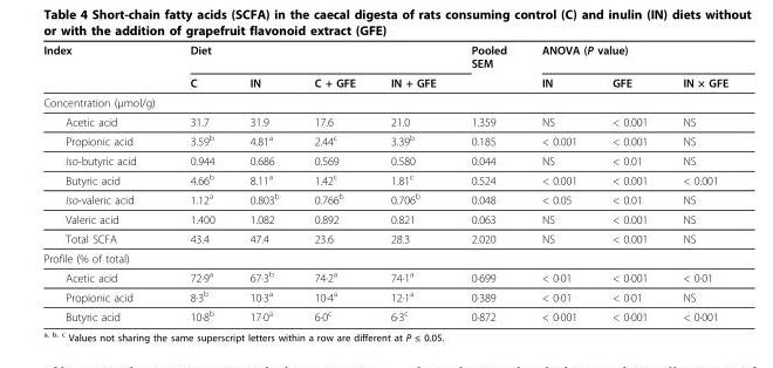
<table><thead><tr><td rowspan="2">Index</td><td colspan="4">Diet</td><td rowspan="2">Pooled SEM</td><td colspan="3">ANOVA (P value)</td></tr><tr><td>C</td><td>IN</td><td>C + GFE</td><td>IN + GFE</td><td>IN</td><td>GFE</td><td>IN × GFE</td></tr></thead><tbody><tr><td colspan="9">Concentration (μmol/g)</td></tr><tr><td>Acetic acid</td><td>31.7</td><td>31.9</td><td>17.6</td><td>21.0</td><td>1.359</td><td>NS</td><td>&lt; 0.001</td><td>NS</td></tr><tr><td>Propionic acid</td><td>3.59b</td><td>4.81a</td><td>2.44c</td><td>3.39b</td><td>0.185</td><td>&lt; 0.001</td><td>&lt; 0.001</td><td>NS</td></tr><tr><td>Iso-butyric acid</td><td>0.944</td><td>0.686</td><td>0.569</td><td>0.580</td><td>0.044</td><td>NS</td><td>&lt; 0.01</td><td>NS</td></tr><tr><td>Butyric acid</td><td>4.66b</td><td>8.11a</td><td>1.42c</td><td>1.81c</td><td>0.524</td><td>&lt; 0.001</td><td>&lt; 0.001</td><td>&lt; 0.001</td></tr><tr><td>Iso-valeric acid</td><td>1.12a</td><td>0.803b</td><td>0.766b</td><td>0.706b</td><td>0.048</td><td>&lt; 0.05</td><td>&lt; 0.01</td><td>NS</td></tr><tr><td>Valeric acid</td><td>1.400</td><td>1.082</td><td>0.892</td><td>0.821</td><td>0.063</td><td>NS</td><td>&lt; 0.001</td><td>NS</td></tr><tr><td>Total SCFA</td><td>43.4</td><td>47.4</td><td>23.6</td><td>28.3</td><td>2.020</td><td>NS</td><td>&lt; 0.001</td><td>NS</td></tr><tr><td colspan="9">Profile (% of total)</td></tr><tr><td>Acetic acid</td><td>72·9a</td><td>67·3b</td><td>74·2a</td><td>74·1a</td><td>0·699</td><td>&lt; 0·01</td><td>&lt; 0·001</td><td>&lt; 0·01</td></tr><tr><td>Propionic acid</td><td>8·3b</td><td>10·3a</td><td>10·4a</td><td>12·1a</td><td>0·389</td><td>&lt; 0·01</td><td>&lt; 0·01</td><td>NS</td></tr><tr><td>Butyric acid</td><td>10·8b</td><td>17·0a</td><td>6·0c</td><td>6·3c</td><td>0·872</td><td>&lt; 0·001</td><td>&lt; 0·001</td><td>&lt; 0·001</td></tr></tbody></table>